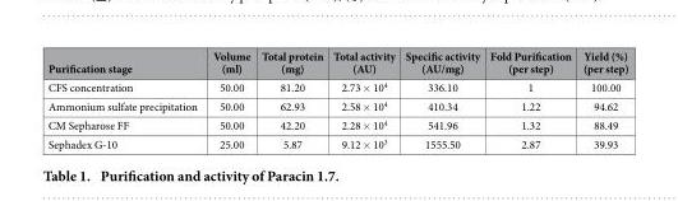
<table><thead><tr><td>Purification stage</td><td>Volume (ml)</td><td>Total protein (mg)</td><td>Total activity (AU)</td><td>Specific activity (AU/mg)</td><td>Fold Purification (per step)</td><td>Yield (%) (per step)</td></tr></thead><tbody><tr><td>CFS concentration</td><td>50.00</td><td>81.20</td><td>2.73 × 10<sup>4</sup></td><td>336.10</td><td>1</td><td>100.00</td></tr><tr><td>Ammonium sulfate precipitation</td><td>50.00</td><td>62.93</td><td>2.58 × 10<sup>4</sup></td><td>410.34</td><td>1.22</td><td>94.62</td></tr><tr><td>CM Sepharose FF</td><td>50.00</td><td>42.20</td><td>2.28 × 10<sup>4</sup></td><td>541.96</td><td>1.32</td><td>88.49</td></tr><tr><td>Sephadex G-10</td><td>25.00</td><td>5.87</td><td>9.12 × 10<sup>3</sup></td><td>1555.50</td><td>2.87</td><td>39.93</td></tr></tbody></table>